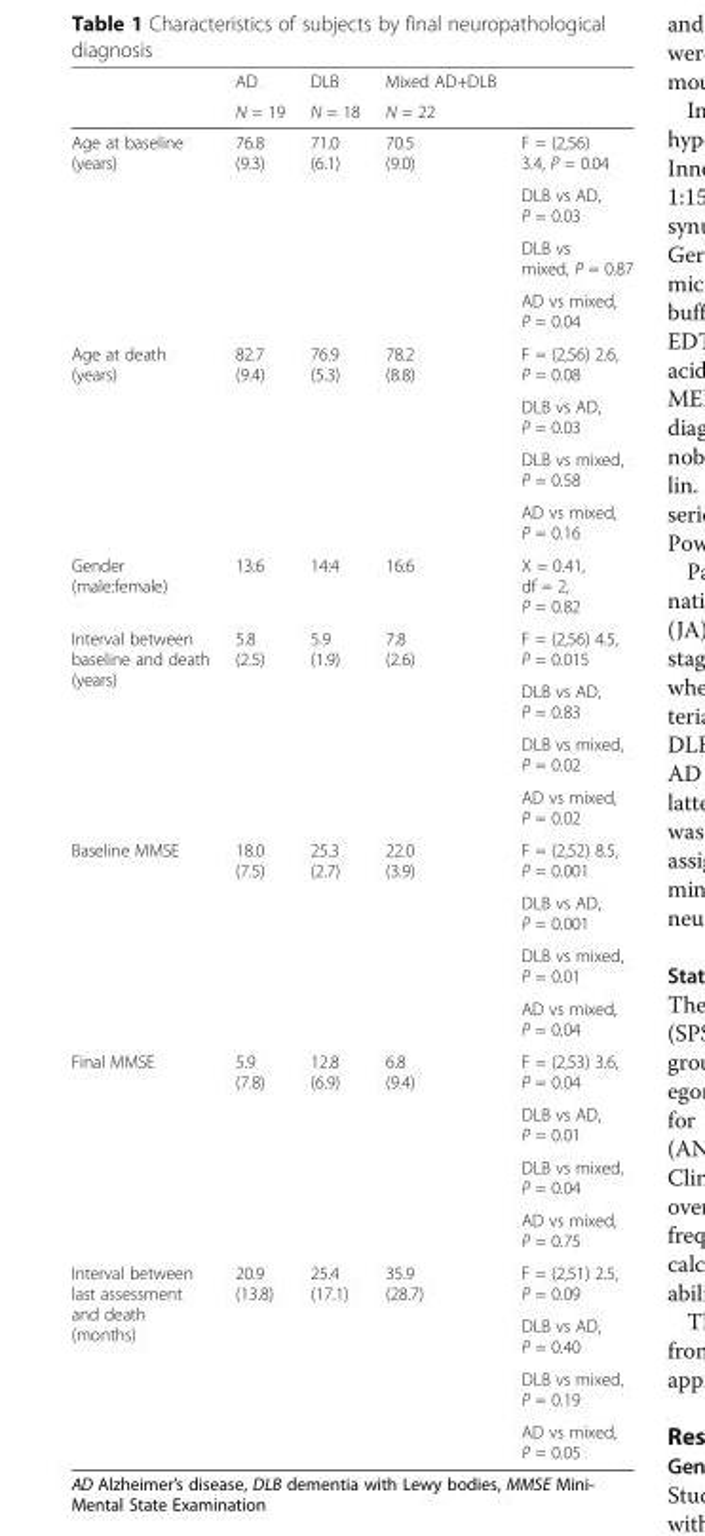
<table><thead><tr><td rowspan="2"></td><td rowspan="2">AD N = 19</td><td rowspan="2">DLB N = 18</td><td rowspan="2">Mixed AD+DLB N = 22</td><td rowspan="2"></td></tr><tr></tr></thead><tbody><tr><td rowspan="4">Age at baseline (years)</td><td rowspan="4">76.8 (9.3)</td><td rowspan="4">71.0 (6.1)</td><td rowspan="4">70.5 (9.0)</td><td>F = (2,56) 3.4, P = 0.04</td></tr><tr><td>DLB vs AD, P = 0.03</td></tr><tr><td>DLB vs mixed, P = 0.87</td></tr><tr><td>AD vs mixed, P = 0.04</td></tr><tr><td rowspan="4">Age at death (years)</td><td rowspan="4">82.7 (9.4)</td><td rowspan="4">76.9 (5.3)</td><td rowspan="4">78.2 (8.8)</td><td>F = (2,56) 2.6, P = 0.08</td></tr><tr><td>DLB vs AD, P = 0.03</td></tr><tr><td>DLB vs mixed, P = 0.58</td></tr><tr><td>AD vs mixed, P = 0.16</td></tr><tr><td>Gender (male:female)</td><td>13:6</td><td>14:4</td><td>16:6</td><td>X = 0.41, df = 2, P = 0.82</td></tr><tr><td rowspan="4">Interval between baseline and death (years)</td><td rowspan="4">5.8 (2.5)</td><td rowspan="4">5.9 (1.9)</td><td rowspan="4">7.8 (2.6)</td><td>F = (2,56) 4.5, P = 0.015</td></tr><tr><td>DLB vs AD, P = 0.83</td></tr><tr><td>DLB vs mixed, P = 0.02</td></tr><tr><td>AD vs mixed, P = 0.02</td></tr><tr><td rowspan="4">Baseline MMSE</td><td rowspan="4">18.0 (7.5)</td><td rowspan="4">25.3 (2.7)</td><td rowspan="4">22.0 (3.9)</td><td>F = (2,52) 8.5, P = 0.001</td></tr><tr><td>DLB vs AD, P = 0.001</td></tr><tr><td>DLB vs mixed, P = 0.01</td></tr><tr><td>AD vs mixed, P = 0.04</td></tr><tr><td rowspan="4">Final MMSE</td><td rowspan="4">5.9 (7.8)</td><td rowspan="4">12.8 (6.9)</td><td rowspan="4">6.8 (9.4)</td><td>F = (2,53) 3.6, P = 0.04</td></tr><tr><td>DLB vs AD, P = 0.01</td></tr><tr><td>DLB vs mixed, P = 0.04</td></tr><tr><td>AD vs mixed, P = 0.75</td></tr><tr><td rowspan="4">Interval between last assessment and death (months)</td><td rowspan="4">20.9 (13.8)</td><td rowspan="4">25.4 (17.1)</td><td rowspan="4">35.9 (28.7)</td><td>F = (2,51) 2.5, P = 0.09</td></tr><tr><td>DLB vs AD, P = 0.40</td></tr><tr><td>DLB vs mixed, P = 0.19</td></tr><tr><td>AD vs mixed, P = 0.05</td></tr></tbody></table>